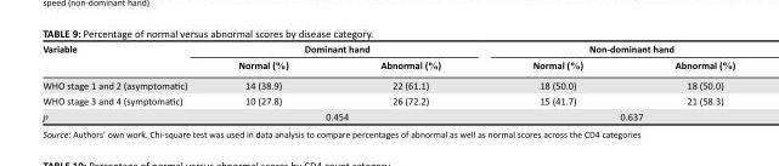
<table><thead><tr><td rowspan="2">Variable</td><td colspan="3">Dominant hand</td><td colspan="3">Non-dominant hand</td></tr><tr><td>Normal (%)</td><td></td><td>Abnormal (%)</td><td>Normal (%)</td><td></td><td>Abnormal (%)</td></tr></thead><tbody><tr><td>WHO stage 1 and 2 (asymptomatic)</td><td>14 (38.9)</td><td></td><td>22 (61.1)</td><td>18 (50.0)</td><td></td><td>18 (50.0)</td></tr><tr><td>WHO stage 3 and 4 (symptomatic)</td><td>10 (27.8)</td><td></td><td>26 (72.2)</td><td>15 (41.7)</td><td></td><td>21 (58.3)</td></tr><tr><td>p</td><td></td><td>0.454</td><td></td><td></td><td>0.637</td><td></td></tr></tbody></table>